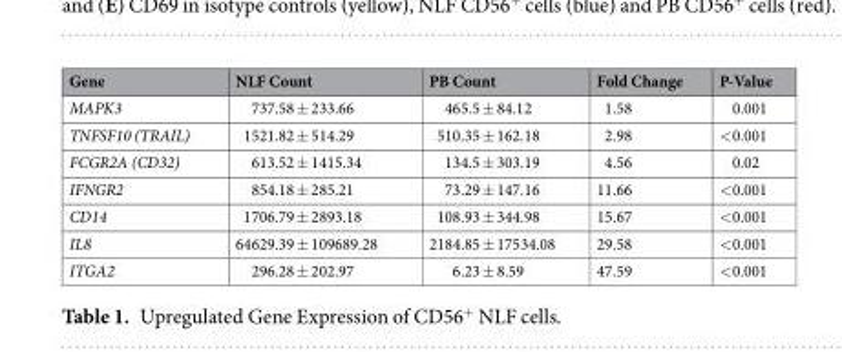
<table><thead><tr><td>Gene</td><td>NLF Count</td><td>PB Count</td><td>Fold Change</td><td>P-Value</td></tr></thead><tbody><tr><td>MAPK3</td><td>737.58 ± 233.66</td><td>465.5 ± 84.12</td><td>1.58</td><td>0.001</td></tr><tr><td>TNFSF10 (TRAIL)</td><td>1521.82 ± 514.29</td><td>510.35 ± 162.18</td><td>2.98</td><td>&lt;0.001</td></tr><tr><td>FCGR2A (CD32)</td><td>613.52 ± 1415.34</td><td>134.5 ± 303.19</td><td>4.56</td><td>0.02</td></tr><tr><td>IFNGR2</td><td>854.18 ± 285.21</td><td>73.29 ± 147.16</td><td>11.66</td><td>&lt;0.001</td></tr><tr><td>CD14</td><td>1706.79 ± 2893.18</td><td>108.93 ± 344.98</td><td>15.67</td><td>&lt;0.001</td></tr><tr><td>IL8</td><td>64629.39 ± 109689.28</td><td>2184.85 ± 17534.08</td><td>29.58</td><td>&lt;0.001</td></tr><tr><td>ITGA2</td><td>296.28 ± 202.97</td><td>6.23 ± 8.59</td><td>47.59</td><td>&lt;0.001</td></tr></tbody></table>